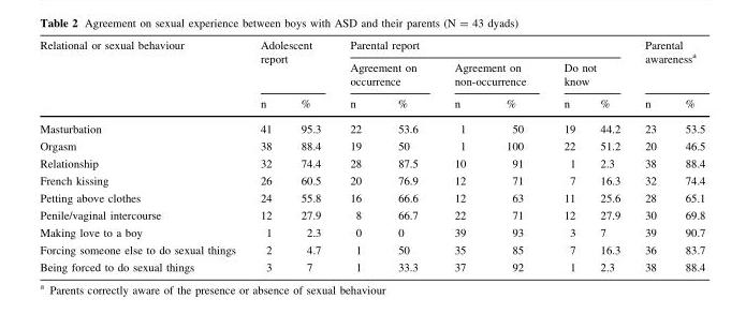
<table><thead><tr><td rowspan="3">Relational or sexual behaviour</td><td rowspan="2" colspan="2">Adolescent report</td><td colspan="6">Parental report</td><td rowspan="2" colspan="2">Parental awareness<sup>a</sup></td></tr><tr><td colspan="2">Agreement on occurrence</td><td colspan="2">Agreement on non-occurrence</td><td colspan="2">Do not know</td></tr><tr><td>n</td><td>%</td><td>n</td><td>%</td><td>n</td><td>%</td><td>n</td><td>%</td><td>n</td><td>%</td></tr></thead><tbody><tr><td>Masturbation</td><td>41</td><td>95.3</td><td>22</td><td>53.6</td><td>1</td><td>50</td><td>19</td><td>44.2</td><td>23</td><td>53.5</td></tr><tr><td>Orgasm</td><td>38</td><td>88.4</td><td>19</td><td>50</td><td>1</td><td>100</td><td>22</td><td>51.2</td><td>20</td><td>46.5</td></tr><tr><td>Relationship</td><td>32</td><td>74.4</td><td>28</td><td>87.5</td><td>10</td><td>91</td><td>1</td><td>2.3</td><td>38</td><td>88.4</td></tr><tr><td>French kissing</td><td>26</td><td>60.5</td><td>20</td><td>76.9</td><td>12</td><td>71</td><td>7</td><td>16.3</td><td>32</td><td>74.4</td></tr><tr><td>Petting above clothes</td><td>24</td><td>55.8</td><td>16</td><td>66.6</td><td>12</td><td>63</td><td>11</td><td>25.6</td><td>28</td><td>65.1</td></tr><tr><td>Penile/vaginal intercourse</td><td>12</td><td>27.9</td><td>8</td><td>66.7</td><td>22</td><td>71</td><td>12</td><td>27.9</td><td>30</td><td>69.8</td></tr><tr><td>Making love to a boy</td><td>1</td><td>2.3</td><td>0</td><td>0</td><td>39</td><td>93</td><td>3</td><td>7</td><td>39</td><td>90.7</td></tr><tr><td>Forcing someone else to do sexual things</td><td>2</td><td>4.7</td><td>1</td><td>50</td><td>35</td><td>85</td><td>7</td><td>16.3</td><td>36</td><td>83.7</td></tr><tr><td>Being forced to do sexual things</td><td>3</td><td>7</td><td>1</td><td>33.3</td><td>37</td><td>92</td><td>1</td><td>2.3</td><td>38</td><td>88.4</td></tr></tbody></table>